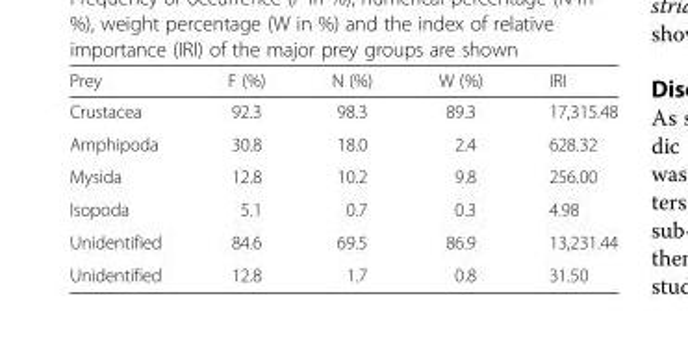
<table><thead><tr><td>Prey</td><td>F (%)</td><td>N (%)</td><td>W (%)</td><td>IRI</td></tr></thead><tbody><tr><td>Crustacea</td><td>92.3</td><td>98.3</td><td>89.3</td><td>17,315.48</td></tr><tr><td>Amphipoda</td><td>30.8</td><td>18.0</td><td>2.4</td><td>628.32</td></tr><tr><td>Mysida</td><td>12.8</td><td>10.2</td><td>9.8</td><td>256.00</td></tr><tr><td>Isopoda</td><td>5.1</td><td>0.7</td><td>0.3</td><td>4.98</td></tr><tr><td>Unidentified</td><td>84.6</td><td>69.5</td><td>86.9</td><td>13,231.44</td></tr><tr><td>Unidentified</td><td>12.8</td><td>1.7</td><td>0.8</td><td>31.50</td></tr></tbody></table>